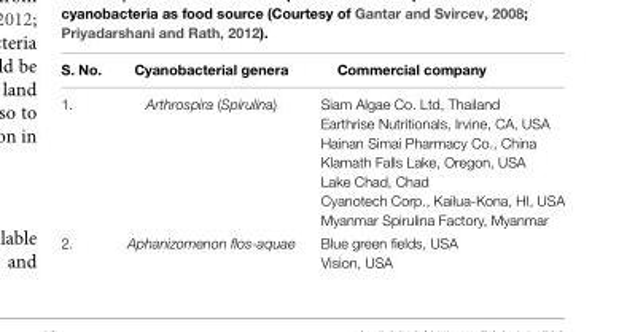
<table><thead><tr><td>S. No.</td><td>Cyanobacterial genera</td><td>Commercial company</td></tr></thead><tbody><tr><td>1.</td><td>Arthrospira (Spirulina)</td><td>Siam Algae Co. Ltd, Thailand Earthrise Nutritionals, Irvine, CA, USA Hainan Simai Pharmacy Co., China Klamath Falls Lake, Oregon, USA Lake Chad, Chad Cyanotech Corp., Kailua-Kona, HI, USA Myanmar Spirulina Factory, Myanmar</td></tr><tr><td>2.</td><td>Aphanizomenon flos-aquae</td><td>Blue green fields, USA Vision, USA</td></tr></tbody></table>